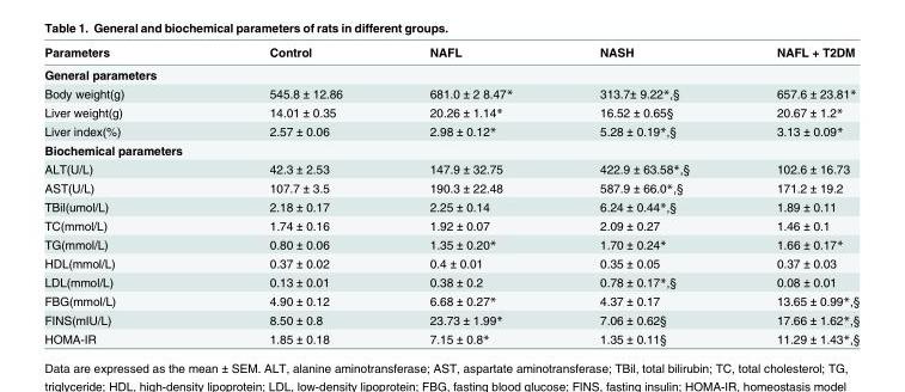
<table><thead><tr><td>Parameters</td><td>Control</td><td>NAFL</td><td>NASH</td><td>NAFL + T2DM</td></tr></thead><tbody><tr><td colspan="5">General parameters</td></tr><tr><td>Body weight(g)</td><td>545.8 ± 12.86</td><td>681.0 ± 2 8.47*</td><td>313.7± 9.22*,§</td><td>657.6 ± 23.81*</td></tr><tr><td>Liver weight(g)</td><td>14.01 ± 0.35</td><td>20.26 ± 1.14*</td><td>16.52 ± 0.65§</td><td>20.67 ± 1.2*</td></tr><tr><td>Liver index(%)</td><td>2.57 ± 0.06</td><td>2.98 ± 0.12*</td><td>5.28 ± 0.19*,§</td><td>3.13 ± 0.09*</td></tr><tr><td colspan="5">Biochemical parameters</td></tr><tr><td>ALT(U/L)</td><td>42.3 ± 2.53</td><td>147.9 ± 32.75</td><td>422.9 ± 63.58*,§</td><td>102.6 ± 16.73</td></tr><tr><td>AST(U/L)</td><td>107.7 ± 3.5</td><td>190.3 ± 22.48</td><td>587.9 ± 66.0*,§</td><td>171.2 ± 19.2</td></tr><tr><td>TBil(umol/L)</td><td>2.18 ± 0.17</td><td>2.25 ± 0.14</td><td>6.24 ± 0.44*,§</td><td>1.89 ± 0.11</td></tr><tr><td>TC(mmol/L)</td><td>1.74 ± 0.16</td><td>1.92 ± 0.07</td><td>2.09 ± 0.27</td><td>1.46 ± 0.1</td></tr><tr><td>TG(mmol/L)</td><td>0.80 ± 0.06</td><td>1.35 ± 0.20*</td><td>1.70 ± 0.24*</td><td>1.66 ± 0.17*</td></tr><tr><td>HDL(mmol/L)</td><td>0.37 ± 0.02</td><td>0.4 ± 0.01</td><td>0.35 ± 0.05</td><td>0.37 ± 0.03</td></tr><tr><td>LDL(mmol/L)</td><td>0.13 ± 0.01</td><td>0.38 ± 0.2</td><td>0.78 ± 0.17*,§</td><td>0.08 ± 0.01</td></tr><tr><td>FBG(mmol/L)</td><td>4.90 ± 0.12</td><td>6.68 ± 0.27*</td><td>4.37 ± 0.17</td><td>13.65 ± 0.99*,§</td></tr><tr><td>FINS(mIU/L)</td><td>8.50 ± 0.8</td><td>23.73 ± 1.99*</td><td>7.06 ± 0.62§</td><td>17.66 ± 1.62*,§</td></tr><tr><td>HOMA-IR</td><td>1.85 ± 0.18</td><td>7.15 ± 0.8*</td><td>1.35 ± 0.11§</td><td>11.29 ± 1.43*,§</td></tr></tbody></table>